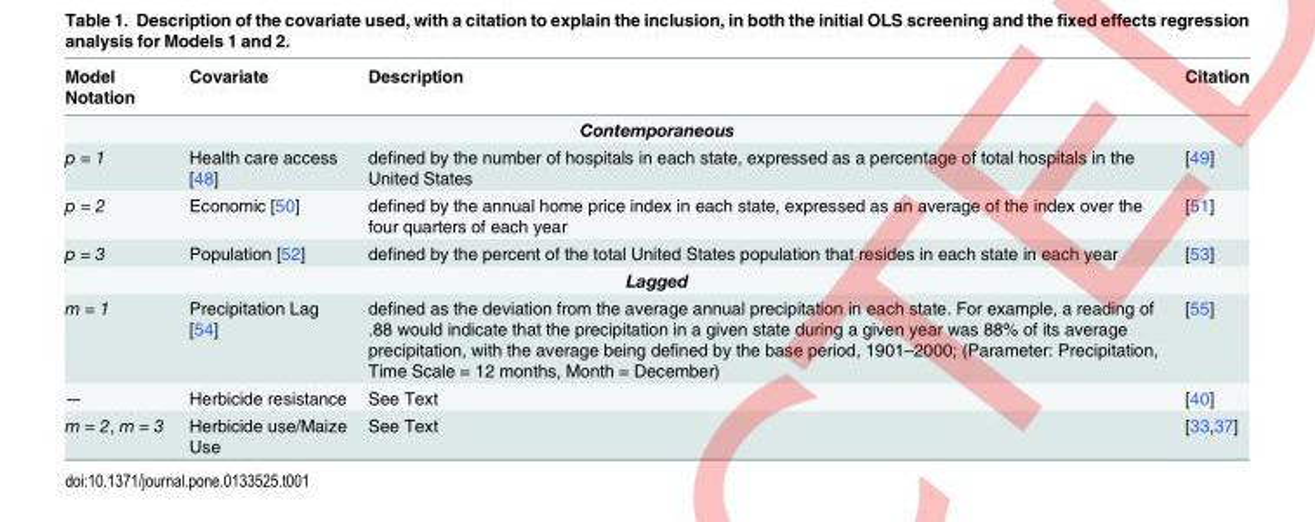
<table><thead><tr><td>Model Notation</td><td>Covariate</td><td>Description</td><td>Citation</td></tr></thead><tbody><tr><td colspan="4">Contemporaneous</td></tr><tr><td>p = 1</td><td>Health care access [48]</td><td>defined by the number of hospitals in each state, expressed as a percentage of total hospitals in the United States</td><td>[49]</td></tr><tr><td>p = 2</td><td>Economic [50]</td><td>defined by the annual home price index in each state, expressed as an average of the index over the four quarters of each year</td><td>[51]</td></tr><tr><td>p = 3</td><td>Population [52]</td><td>defined by the percent of the total United States population that resides in each state in each year</td><td>[53]</td></tr><tr><td colspan="4">Lagged</td></tr><tr><td>m = 1</td><td>Precipitation Lag [54]</td><td>defined as the deviation from the average annual precipitation in each state. For example, a reading of .88 would indicate that the precipitation in a given state during a given year was 88% of its average precipitation, with the average being defined by the base period, 1901–2000; (Parameter: Precipitation, Time Scale = 12 months, Month = December)</td><td>[55]</td></tr><tr><td>—</td><td>Herbicide resistance</td><td>See Text</td><td>[40]</td></tr><tr><td>m = 2, m = 3</td><td>Herbicide use/Maize Use</td><td>See Text</td><td>[33,37]</td></tr></tbody></table>